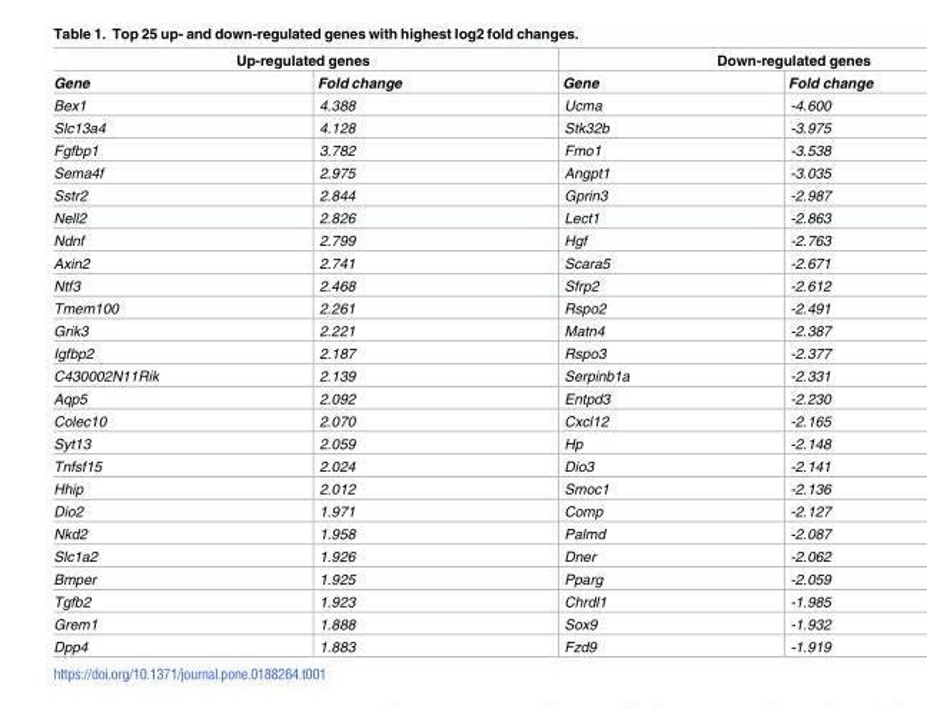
<table><thead><tr><td colspan="2">Up-regulated genes</td><td colspan="2">Down-regulated genes</td></tr><tr><td>Gene</td><td>Fold change</td><td>Gene</td><td>Fold change</td></tr></thead><tbody><tr><td>Bex1</td><td>4.388</td><td>Ucma</td><td>-4.600</td></tr><tr><td>Slc13a4</td><td>4.128</td><td>Stk32b</td><td>-3.975</td></tr><tr><td>Fgfbp1</td><td>3.782</td><td>Fmo1</td><td>-3.538</td></tr><tr><td>Sema4f</td><td>2.975</td><td>Angpt1</td><td>-3.035</td></tr><tr><td>Sstr2</td><td>2.844</td><td>Gprin3</td><td>-2.987</td></tr><tr><td>Nell2</td><td>2.826</td><td>Lect1</td><td>-2.863</td></tr><tr><td>Ndnf</td><td>2.799</td><td>Hgf</td><td>-2.763</td></tr><tr><td>Axin2</td><td>2.741</td><td>Scara5</td><td>-2.671</td></tr><tr><td>Ntf3</td><td>2.468</td><td>Sfrp2</td><td>-2.612</td></tr><tr><td>Tmem100</td><td>2.261</td><td>Rspo2</td><td>-2.491</td></tr><tr><td>Grik3</td><td>2.221</td><td>Matn4</td><td>-2.387</td></tr><tr><td>Igfbp2</td><td>2.187</td><td>Rspo3</td><td>-2.377</td></tr><tr><td>C430002N11Rik</td><td>2.139</td><td>Serpinb1a</td><td>-2.331</td></tr><tr><td>Aqp5</td><td>2.092</td><td>Entpd3</td><td>-2.230</td></tr><tr><td>Colec10</td><td>2.070</td><td>Cxcl12</td><td>-2.165</td></tr><tr><td>Syt13</td><td>2.059</td><td>Hp</td><td>-2.148</td></tr><tr><td>Tnfsf15</td><td>2.024</td><td>Dio3</td><td>-2.141</td></tr><tr><td>Hhip</td><td>2.012</td><td>Smoc1</td><td>-2.136</td></tr><tr><td>Dio2</td><td>1.971</td><td>Comp</td><td>-2.127</td></tr><tr><td>Nkd2</td><td>1.958</td><td>Palmd</td><td>-2.087</td></tr><tr><td>Slc1a2</td><td>1.926</td><td>Dner</td><td>-2.062</td></tr><tr><td>Bmper</td><td>1.925</td><td>Pparg</td><td>-2.059</td></tr><tr><td>Tgfb2</td><td>1.923</td><td>Chrdl1</td><td>-1.985</td></tr><tr><td>Grem1</td><td>1.888</td><td>Sox9</td><td>-1.932</td></tr><tr><td>Dpp4</td><td>1.883</td><td>Fzd9</td><td>-1.919</td></tr></tbody></table>